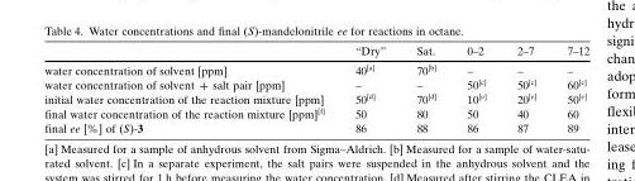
<table><thead><tr><td></td><td>“Dry”</td><td>Sat.</td><td>0–2</td><td>2–7</td><td>7–12</td></tr></thead><tbody><tr><td>water concentration of solvent [ppm]</td><td>40[a]</td><td>70[b]</td><td>–</td><td>–</td><td>–</td></tr><tr><td>water concentration of solvent + salt pair [ppm]</td><td>–</td><td>–</td><td>50[c]</td><td>50[c]</td><td>60[c]</td></tr><tr><td>initial water concentration of the reaction mixture [ppm]</td><td>50[d]</td><td>70[d]</td><td>10[e]</td><td>20[e]</td><td>50[e]</td></tr><tr><td>final water concentration of the reaction mixture [ppm][f]</td><td>50</td><td>80</td><td>50</td><td>40</td><td>60</td></tr><tr><td>final ee [%] of (S)-3</td><td>86</td><td>88</td><td>86</td><td>87</td><td>89</td></tr></tbody></table>